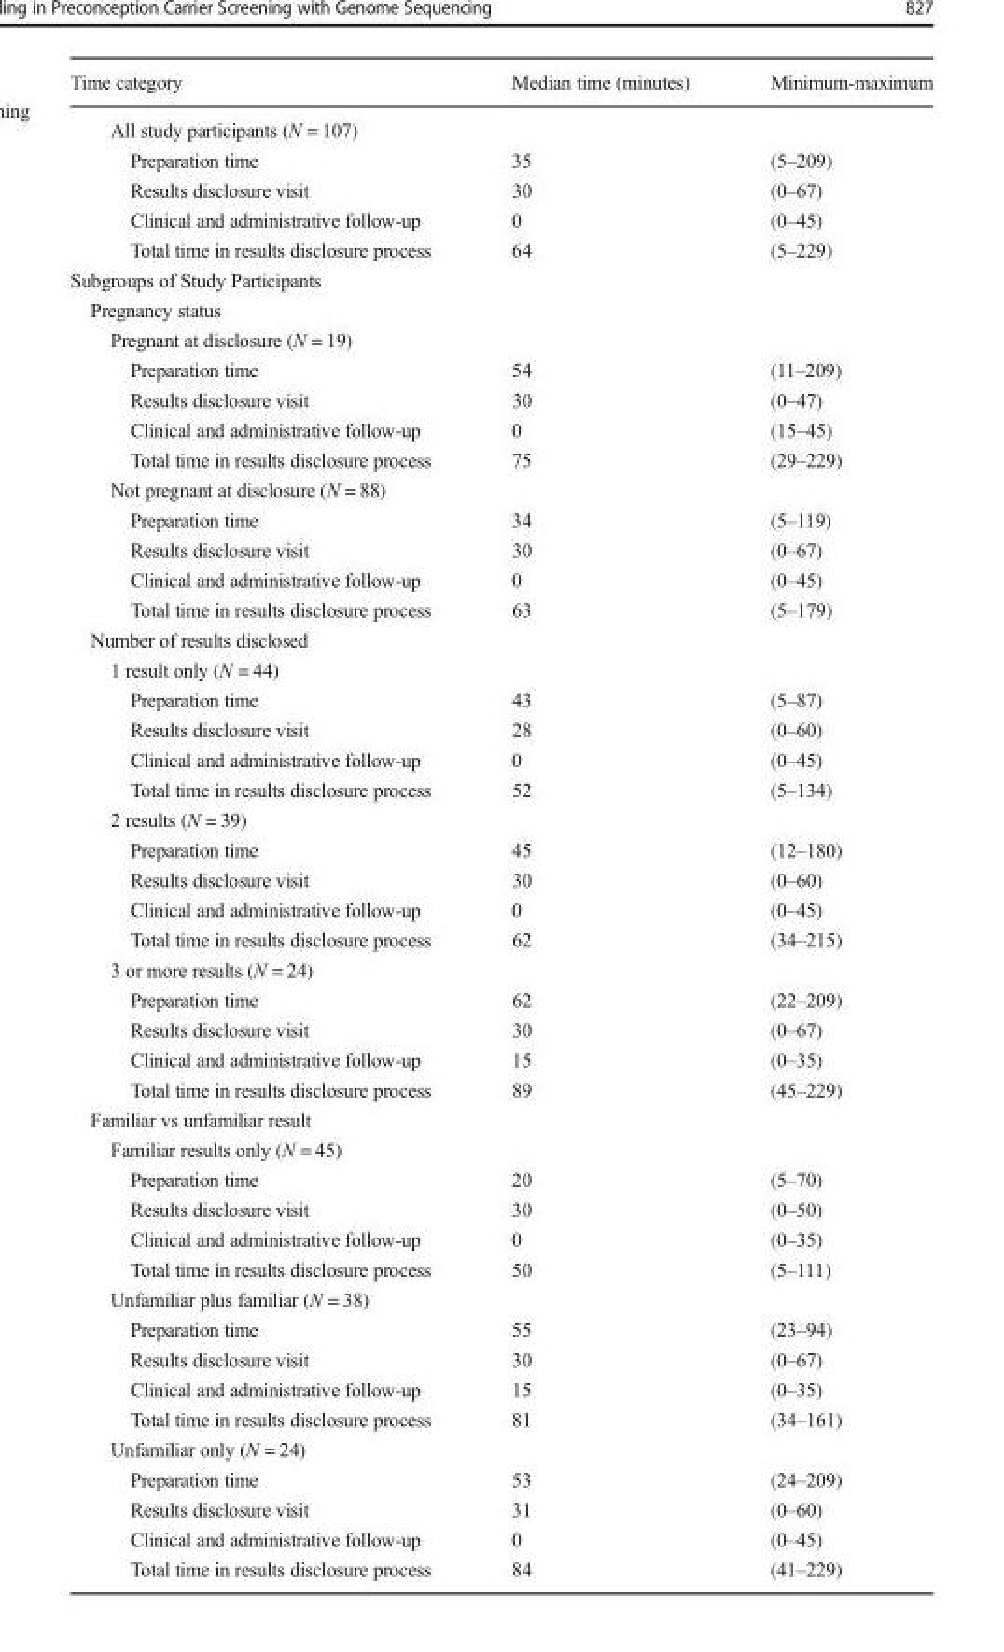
<table><thead><tr><td>Time category</td><td>Median time (minutes)</td><td>Minimum-maximum</td></tr></thead><tbody><tr><td colspan="3">All study participants (N = 107)</td></tr><tr><td>Preparation time</td><td>35</td><td>(5–209)</td></tr><tr><td>Results disclosure visit</td><td>30</td><td>(0–67)</td></tr><tr><td>Clinical and administrative follow-up</td><td>0</td><td>(0–45)</td></tr><tr><td>Total time in results disclosure process</td><td>64</td><td>(5–229)</td></tr><tr><td colspan="3">Subgroups of Study Participants</td></tr><tr><td colspan="3">Pregnancy status</td></tr><tr><td colspan="3">Pregnant at disclosure (N = 19)</td></tr><tr><td>Preparation time</td><td>54</td><td>(11–209)</td></tr><tr><td>Results disclosure visit</td><td>30</td><td>(0–47)</td></tr><tr><td>Clinical and administrative follow-up</td><td>0</td><td>(15–45)</td></tr><tr><td>Total time in results disclosure process</td><td>75</td><td>(29–229)</td></tr><tr><td colspan="3">Not pregnant at disclosure (N = 88)</td></tr><tr><td>Preparation time</td><td>34</td><td>(5–119)</td></tr><tr><td>Results disclosure visit</td><td>30</td><td>(0–67)</td></tr><tr><td>Clinical and administrative follow-up</td><td>0</td><td>(0–45)</td></tr><tr><td>Total time in results disclosure process</td><td>63</td><td>(5–179)</td></tr><tr><td colspan="3">Number of results disclosed</td></tr><tr><td colspan="3">1 result only (N = 44)</td></tr><tr><td>Preparation time</td><td>43</td><td>(5–87)</td></tr><tr><td>Results disclosure visit</td><td>28</td><td>(0–60)</td></tr><tr><td>Clinical and administrative follow-up</td><td>0</td><td>(0–45)</td></tr><tr><td>Total time in results disclosure process</td><td>52</td><td>(5–134)</td></tr><tr><td colspan="3">2 results (N = 39)</td></tr><tr><td>Preparation time</td><td>45</td><td>(12–180)</td></tr><tr><td>Results disclosure visit</td><td>30</td><td>(0–60)</td></tr><tr><td>Clinical and administrative follow-up</td><td>0</td><td>(0–45)</td></tr><tr><td>Total time in results disclosure process</td><td>62</td><td>(34–215)</td></tr><tr><td colspan="3">3 or more results (N = 24)</td></tr><tr><td>Preparation time</td><td>62</td><td>(22–209)</td></tr><tr><td>Results disclosure visit</td><td>30</td><td>(0–67)</td></tr><tr><td>Clinical and administrative follow-up</td><td>15</td><td>(0–35)</td></tr><tr><td>Total time in results disclosure process</td><td>89</td><td>(45–229)</td></tr><tr><td colspan="3">Familiar vs unfamiliar result</td></tr><tr><td colspan="3">Familiar results only (N = 45)</td></tr><tr><td>Preparation time</td><td>20</td><td>(5–70)</td></tr><tr><td>Results disclosure visit</td><td>30</td><td>(0–50)</td></tr><tr><td>Clinical and administrative follow-up</td><td>0</td><td>(0–35)</td></tr><tr><td>Total time in results disclosure process</td><td>50</td><td>(5–111)</td></tr><tr><td colspan="3">Unfamiliar plus familiar (N = 38)</td></tr><tr><td>Preparation time</td><td>55</td><td>(23–94)</td></tr><tr><td>Results disclosure visit</td><td>30</td><td>(0–67)</td></tr><tr><td>Clinical and administrative follow-up</td><td>15</td><td>(0–35)</td></tr><tr><td>Total time in results disclosure process</td><td>81</td><td>(34–161)</td></tr><tr><td colspan="3">Unfamiliar only (N = 24)</td></tr><tr><td>Preparation time</td><td>53</td><td>(24–209)</td></tr><tr><td>Results disclosure visit</td><td>31</td><td>(0–60)</td></tr><tr><td>Clinical and administrative follow-up</td><td>0</td><td>(0–45)</td></tr><tr><td>Total time in results disclosure process</td><td>84</td><td>(41–229)</td></tr></tbody></table>